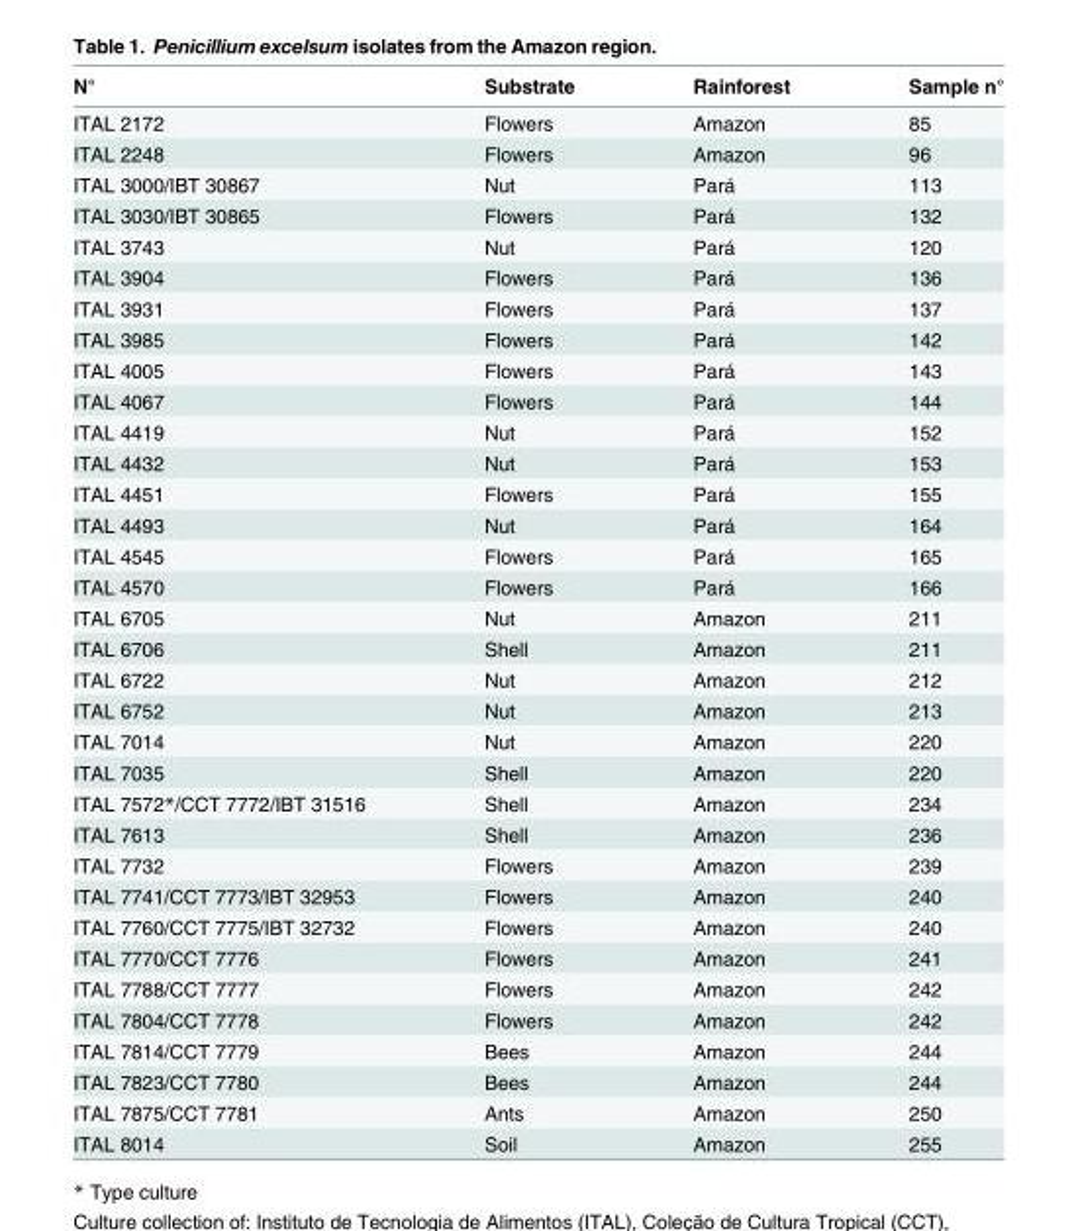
<table><thead><tr><td>N°</td><td>Substrate</td><td>Rainforest</td><td>Sample n°</td></tr></thead><tbody><tr><td>ITAL 2172</td><td>Flowers</td><td>Amazon</td><td>85</td></tr><tr><td>ITAL 2248</td><td>Flowers</td><td>Amazon</td><td>96</td></tr><tr><td>ITAL 3000/IBT 30867</td><td>Nut</td><td>Pará</td><td>113</td></tr><tr><td>ITAL 3030/IBT 30865</td><td>Flowers</td><td>Pará</td><td>132</td></tr><tr><td>ITAL 3743</td><td>Nut</td><td>Pará</td><td>120</td></tr><tr><td>ITAL 3904</td><td>Flowers</td><td>Pará</td><td>136</td></tr><tr><td>ITAL 3931</td><td>Flowers</td><td>Pará</td><td>137</td></tr><tr><td>ITAL 3985</td><td>Flowers</td><td>Pará</td><td>142</td></tr><tr><td>ITAL 4005</td><td>Flowers</td><td>Pará</td><td>143</td></tr><tr><td>ITAL 4067</td><td>Flowers</td><td>Pará</td><td>144</td></tr><tr><td>ITAL 4419</td><td>Nut</td><td>Pará</td><td>152</td></tr><tr><td>ITAL 4432</td><td>Nut</td><td>Pará</td><td>153</td></tr><tr><td>ITAL 4451</td><td>Flowers</td><td>Pará</td><td>155</td></tr><tr><td>ITAL 4493</td><td>Nut</td><td>Pará</td><td>164</td></tr><tr><td>ITAL 4545</td><td>Flowers</td><td>Pará</td><td>165</td></tr><tr><td>ITAL 4570</td><td>Flowers</td><td>Pará</td><td>166</td></tr><tr><td>ITAL 6705</td><td>Nut</td><td>Amazon</td><td>211</td></tr><tr><td>ITAL 6706</td><td>Shell</td><td>Amazon</td><td>211</td></tr><tr><td>ITAL 6722</td><td>Nut</td><td>Amazon</td><td>212</td></tr><tr><td>ITAL 6752</td><td>Nut</td><td>Amazon</td><td>213</td></tr><tr><td>ITAL 7014</td><td>Nut</td><td>Amazon</td><td>220</td></tr><tr><td>ITAL 7035</td><td>Shell</td><td>Amazon</td><td>220</td></tr><tr><td>ITAL 7572*/CCT 7772/IBT 31516</td><td>Shell</td><td>Amazon</td><td>234</td></tr><tr><td>ITAL 7613</td><td>Shell</td><td>Amazon</td><td>236</td></tr><tr><td>ITAL 7732</td><td>Flowers</td><td>Amazon</td><td>239</td></tr><tr><td>ITAL 7741/CCT 7773/IBT 32953</td><td>Flowers</td><td>Amazon</td><td>240</td></tr><tr><td>ITAL 7760/CCT 7775/IBT 32732</td><td>Flowers</td><td>Amazon</td><td>240</td></tr><tr><td>ITAL 7770/CCT 7776</td><td>Flowers</td><td>Amazon</td><td>241</td></tr><tr><td>ITAL 7788/CCT 7777</td><td>Flowers</td><td>Amazon</td><td>242</td></tr><tr><td>ITAL 7804/CCT 7778</td><td>Flowers</td><td>Amazon</td><td>242</td></tr><tr><td>ITAL 7814/CCT 7779</td><td>Bees</td><td>Amazon</td><td>244</td></tr><tr><td>ITAL 7823/CCT 7780</td><td>Bees</td><td>Amazon</td><td>244</td></tr><tr><td>ITAL 7875/CCT 7781</td><td>Ants</td><td>Amazon</td><td>250</td></tr><tr><td>ITAL 8014</td><td>Soil</td><td>Amazon</td><td>255</td></tr></tbody></table>